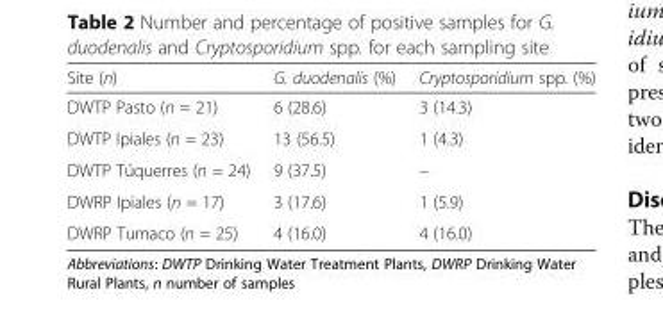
<table><thead><tr><td>Site (n)</td><td>G. duodenalis (%)</td><td>Cryptosporidium spp. (%)</td></tr></thead><tbody><tr><td>DWTP Pasto (n = 21)</td><td>6 (28.6)</td><td>3 (14.3)</td></tr><tr><td>DWTP Ipiales (n = 23)</td><td>13 (56.5)</td><td>1 (4.3)</td></tr><tr><td>DWTP Túquerres (n = 24)</td><td>9 (37.5)</td><td>–</td></tr><tr><td>DWRP Ipiales (n = 17)</td><td>3 (17.6)</td><td>1 (5.9)</td></tr><tr><td>DWRP Tumaco (n = 25)</td><td>4 (16.0)</td><td>4 (16.0)</td></tr></tbody></table>